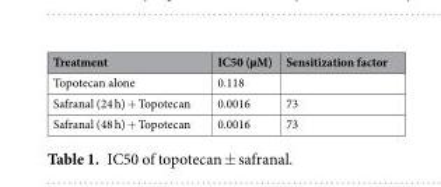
<table><thead><tr><td>Treatment</td><td>IC50 (µM)</td><td>Sensitization factor</td></tr></thead><tbody><tr><td>Topotecan alone</td><td>0.118</td><td></td></tr><tr><td>Safranal (24 h) + Topotecan</td><td>0.0016</td><td>73</td></tr><tr><td>Safranal (48 h) + Topotecan</td><td>0.0016</td><td>73</td></tr></tbody></table>